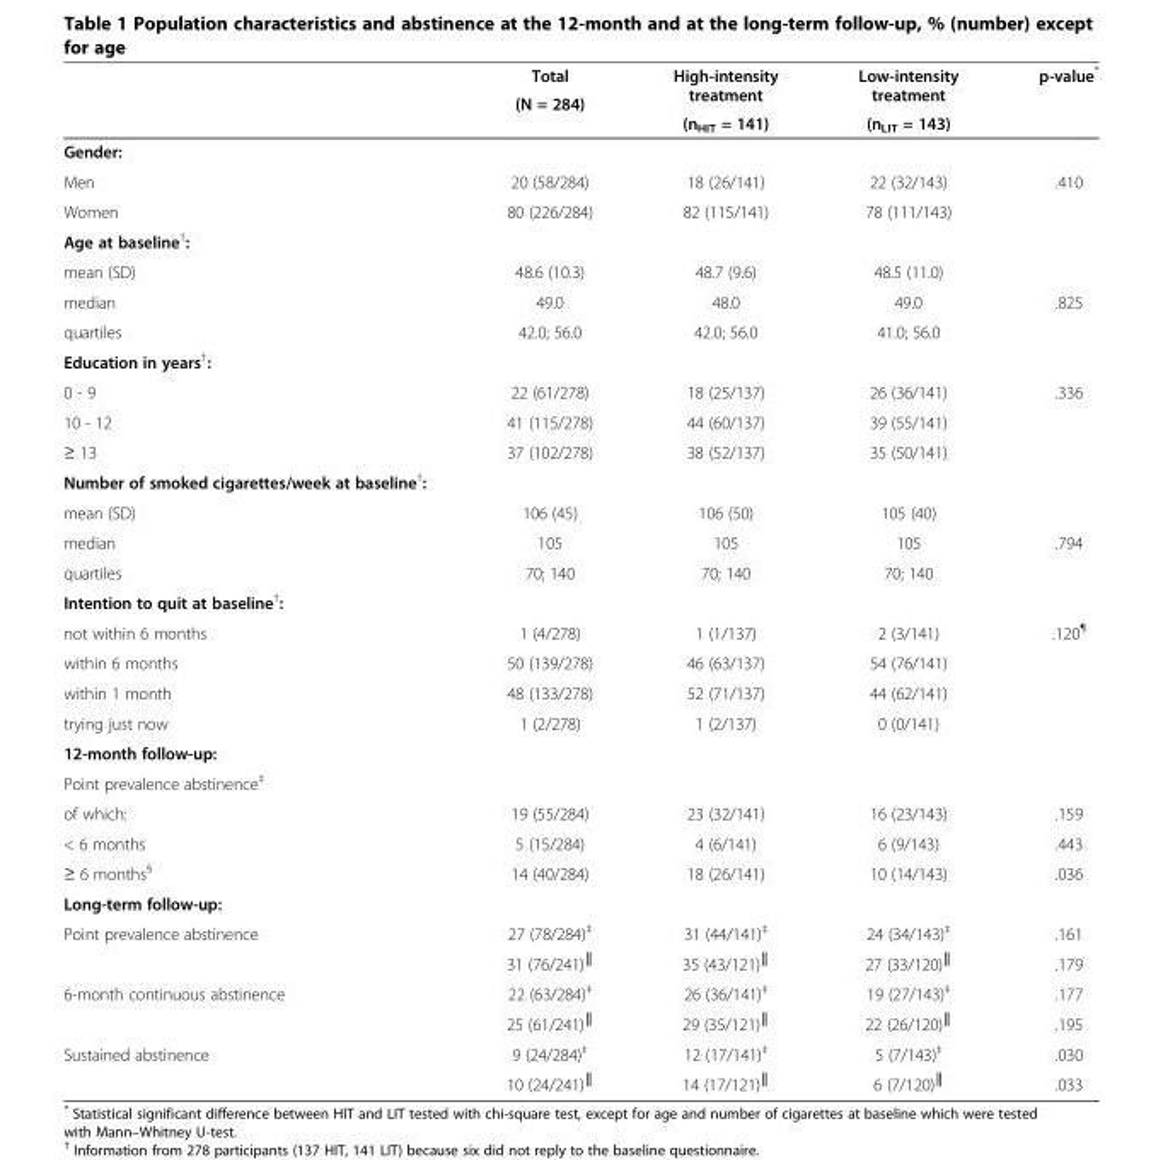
<table><thead><tr><td rowspan="3"></td><td rowspan="3">Total (N = 284)</td><td rowspan="3">High-intensity treatment (n<sub>HIT</sub> = 141)</td><td rowspan="3">Low-intensity treatment (n<sub>LIT</sub> = 143)</td><td rowspan="3">p-value*</td></tr><tr></tr><tr></tr></thead><tbody><tr><td colspan="5">Gender:</td></tr><tr><td>Men</td><td>20 (58/284)</td><td>18 (26/141)</td><td>22 (32/143)</td><td rowspan="2">.410</td></tr><tr><td>Women</td><td>80 (226/284)</td><td>82 (115/141)</td><td>78 (111/143)</td></tr><tr><td colspan="5">Age at baseline<sup>†</sup>:</td></tr><tr><td>mean (SD)</td><td>48.6 (10.3)</td><td>48.7 (9.6)</td><td>48.5 (11.0)</td><td></td></tr><tr><td>median</td><td>49.0</td><td>48.0</td><td>49.0</td><td>.825</td></tr><tr><td>quartiles</td><td>42.0; 56.0</td><td>42.0; 56.0</td><td>41.0; 56.0</td><td></td></tr><tr><td colspan="5">Education in years<sup>†</sup>:</td></tr><tr><td>0 - 9</td><td>22 (61/278)</td><td>18 (25/137)</td><td>26 (36/141)</td><td rowspan="3">.336</td></tr><tr><td>10 - 12</td><td>41 (115/278)</td><td>44 (60/137)</td><td>39 (55/141)</td></tr><tr><td>≥ 13</td><td>37 (102/278)</td><td>38 (52/137)</td><td>35 (50/141)</td></tr><tr><td colspan="5">Number of smoked cigarettes/week at baseline<sup>†</sup>:</td></tr><tr><td>mean (SD)</td><td>106 (45)</td><td>106 (50)</td><td>105 (40)</td><td></td></tr><tr><td>median</td><td>105</td><td>105</td><td>105</td><td>.794</td></tr><tr><td>quartiles</td><td>70; 140</td><td>70; 140</td><td>70; 140</td><td></td></tr><tr><td colspan="5">Intention to quit at baseline<sup>†</sup>:</td></tr><tr><td>not within 6 months</td><td>1 (4/278)</td><td>1 (1/137)</td><td>2 (3/141)</td><td rowspan="4">.120<sup>¶</sup></td></tr><tr><td>within 6 months</td><td>50 (139/278)</td><td>46 (63/137)</td><td>54 (76/141)</td></tr><tr><td>within 1 month</td><td>48 (133/278)</td><td>52 (71/137)</td><td>44 (62/141)</td></tr><tr><td>trying just now</td><td>1 (2/278)</td><td>1 (2/137)</td><td>0 (0/141)</td></tr><tr><td colspan="5">12-month follow-up:</td></tr><tr><td colspan="5">Point prevalence abstinence<sup>‡</sup></td></tr><tr><td>of which:</td><td>19 (55/284)</td><td>23 (32/141)</td><td>16 (23/143)</td><td>.159</td></tr><tr><td>&lt; 6 months</td><td>5 (15/284)</td><td>4 (6/141)</td><td>6 (9/143)</td><td>.443</td></tr><tr><td>≥ 6 months<sup>§</sup></td><td>14 (40/284)</td><td>18 (26/141)</td><td>10 (14/143)</td><td>.036</td></tr><tr><td colspan="5">Long-term follow-up:</td></tr><tr><td rowspan="2">Point prevalence abstinence</td><td>27 (78/284)<sup>‡</sup></td><td>31 (44/141)<sup>‡</sup></td><td>24 (34/143)<sup>‡</sup></td><td>.161</td></tr><tr><td>31 (76/241)<sup>║</sup></td><td>35 (43/121)<sup>║</sup></td><td>27 (33/120)<sup>║</sup></td><td>.179</td></tr><tr><td rowspan="2">6-month continuous abstinence</td><td>22 (63/284)<sup>‡</sup></td><td>26 (36/141)<sup>‡</sup></td><td>19 (27/143)<sup>‡</sup></td><td>.177</td></tr><tr><td>25 (61/241)<sup>║</sup></td><td>29 (35/121)<sup>║</sup></td><td>22 (26/120)<sup>║</sup></td><td>.195</td></tr><tr><td rowspan="2">Sustained abstinence</td><td>9 (24/284)<sup>‡</sup></td><td>12 (17/141)<sup>‡</sup></td><td>5 (7/143)<sup>‡</sup></td><td>.030</td></tr><tr><td>10 (24/241)<sup>║</sup></td><td>14 (17/121)<sup>║</sup></td><td>6 (7/120)<sup>║</sup></td><td>.033</td></tr></tbody></table>